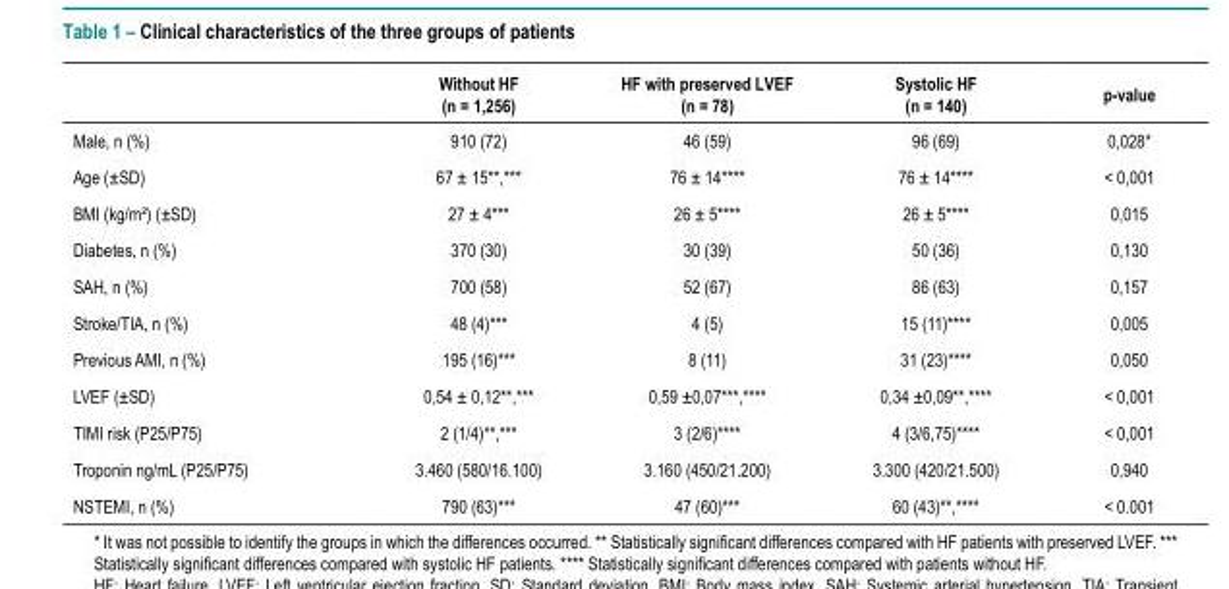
<table><thead><tr><td></td><td>Without HF (n = 1,256)</td><td>HF with preserved LVEF (n = 78)</td><td>Systolic HF (n = 140)</td><td>p-value</td></tr></thead><tbody><tr><td>Male, n (%)</td><td>910 (72)</td><td>46 (59)</td><td>96 (69)</td><td>0,028*</td></tr><tr><td>Age (±SD)</td><td>67 ± 15**,***</td><td>76 ± 14****</td><td>76 ± 14****</td><td>&lt; 0,001</td></tr><tr><td>BMI (kg/m²) (±SD)</td><td>27 ± 4***</td><td>26 ± 5****</td><td>26 ± 5****</td><td>0,015</td></tr><tr><td>Diabetes, n (%)</td><td>370 (30)</td><td>30 (39)</td><td>50 (36)</td><td>0,130</td></tr><tr><td>SAH, n (%)</td><td>700 (58)</td><td>52 (67)</td><td>86 (63)</td><td>0,157</td></tr><tr><td>Stroke/TIA, n (%)</td><td>48 (4)***</td><td>4 (5)</td><td>15 (11)****</td><td>0,005</td></tr><tr><td>Previous AMI, n (%)</td><td>195 (16)***</td><td>8 (11)</td><td>31 (23)****</td><td>0,050</td></tr><tr><td>LVEF (±SD)</td><td>0,54 ± 0,12**,***</td><td>0,59 ±0,07***,****</td><td>0,34 ±0,09**,****</td><td>&lt; 0,001</td></tr><tr><td>TIMI risk (P25/P75)</td><td>2 (1/4)**,***</td><td>3 (2/6)****</td><td>4 (3/6,75)****</td><td>&lt; 0,001</td></tr><tr><td>Troponin ng/mL (P25/P75)</td><td>3.460 (580/16.100)</td><td>3.160 (450/21.200)</td><td>3.300 (420/21.500)</td><td>0,940</td></tr><tr><td>NSTEMI, n (%)</td><td>790 (63)***</td><td>47 (60)***</td><td>60 (43)**,****</td><td>&lt; 0.001</td></tr></tbody></table>